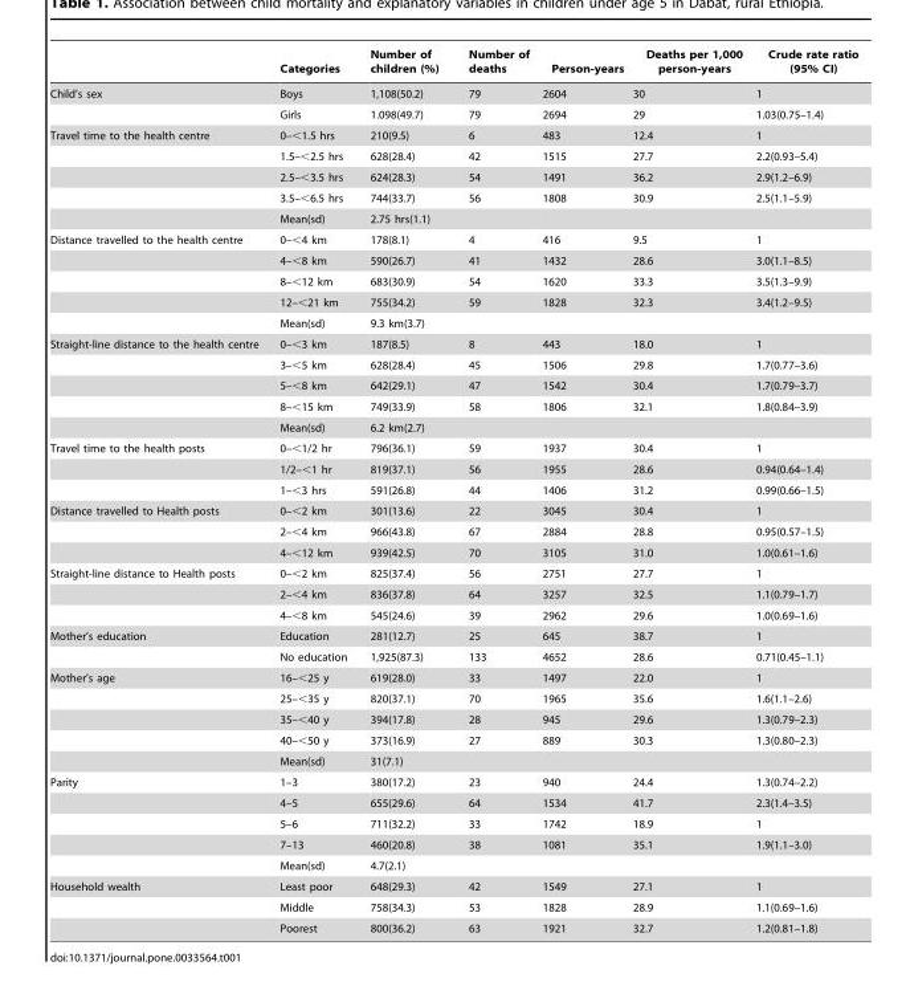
<table><thead><tr><td></td><td>Categories</td><td>Number of children (%)</td><td>Number of deaths</td><td>Person-years</td><td>Deaths per 1,000 person-years</td><td>Crude rate ratio (95% CI)</td></tr></thead><tbody><tr><td rowspan="2">Child’s sex</td><td>Boys</td><td>1,108(50.2)</td><td>79</td><td>2604</td><td>30</td><td>1</td></tr><tr><td>Girls</td><td>1.098(49.7)</td><td>79</td><td>2694</td><td>29</td><td>1.03(0.75–1.4)</td></tr><tr><td rowspan="5">Travel time to the health centre</td><td>0–&lt;1.5 hrs</td><td>210(9.5)</td><td>6</td><td>483</td><td>12.4</td><td>1</td></tr><tr><td>1.5–&lt;2.5 hrs</td><td>628(28.4)</td><td>42</td><td>1515</td><td>27.7</td><td>2.2(0.93–5.4)</td></tr><tr><td>2.5–&lt;3.5 hrs</td><td>624(28.3)</td><td>54</td><td>1491</td><td>36.2</td><td>2.9(1.2–6.9)</td></tr><tr><td>3.5–&lt;6.5 hrs</td><td>744(33.7)</td><td>56</td><td>1808</td><td>30.9</td><td>2.5(1.1–5.9)</td></tr><tr><td>Mean(sd)</td><td>2.75 hrs(1.1)</td><td></td><td></td><td></td><td></td></tr><tr><td rowspan="5">Distance travelled to the health centre</td><td>0–&lt;4 km</td><td>178(8.1)</td><td>4</td><td>416</td><td>9.5</td><td>1</td></tr><tr><td>4–&lt;8 km</td><td>590(26.7)</td><td>41</td><td>1432</td><td>28.6</td><td>3.0(1.1–8.5)</td></tr><tr><td>8–&lt;12 km</td><td>683(30.9)</td><td>54</td><td>1620</td><td>33.3</td><td>3.5(1.3–9.9)</td></tr><tr><td>12–&lt;21 km</td><td>755(34.2)</td><td>59</td><td>1828</td><td>32.3</td><td>3.4(1.2–9.5)</td></tr><tr><td>Mean(sd)</td><td>9.3 km(3.7)</td><td></td><td></td><td></td><td></td></tr><tr><td rowspan="5">Straight-line distance to the health centre</td><td>0–&lt;3 km</td><td>187(8.5)</td><td>8</td><td>443</td><td>18.0</td><td>1</td></tr><tr><td>3–&lt;5 km</td><td>628(28.4)</td><td>45</td><td>1506</td><td>29.8</td><td>1.7(0.77–3.6)</td></tr><tr><td>5–&lt;8 km</td><td>642(29.1)</td><td>47</td><td>1542</td><td>30.4</td><td>1.7(0.79–3.7)</td></tr><tr><td>8–&lt;15 km</td><td>749(33.9)</td><td>58</td><td>1806</td><td>32.1</td><td>1.8(0.84–3.9)</td></tr><tr><td>Mean(sd)</td><td>6.2 km(2.7)</td><td></td><td></td><td></td><td></td></tr><tr><td rowspan="3">Travel time to the health posts</td><td>0–&lt;1/2 hr</td><td>796(36.1)</td><td>59</td><td>1937</td><td>30.4</td><td>1</td></tr><tr><td>1/2–&lt;1 hr</td><td>819(37.1)</td><td>56</td><td>1955</td><td>28.6</td><td>0.94(0.64–1.4)</td></tr><tr><td>1–&lt;3 hrs</td><td>591(26.8)</td><td>44</td><td>1406</td><td>31.2</td><td>0.99(0.66–1.5)</td></tr><tr><td rowspan="3">Distance travelled to Health posts</td><td>0–&lt;2 km</td><td>301(13.6)</td><td>22</td><td>3045</td><td>30.4</td><td>1</td></tr><tr><td>2–&lt;4 km</td><td>966(43.8)</td><td>67</td><td>2884</td><td>28.8</td><td>0.95(0.57–1.5)</td></tr><tr><td>4–&lt;12 km</td><td>939(42.5)</td><td>70</td><td>3105</td><td>31.0</td><td>1.0(0.61–1.6)</td></tr><tr><td rowspan="3">Straight-line distance to Health posts</td><td>0–&lt;2 km</td><td>825(37.4)</td><td>56</td><td>2751</td><td>27.7</td><td>1</td></tr><tr><td>2–&lt;4 km</td><td>836(37.8)</td><td>64</td><td>3257</td><td>32.5</td><td>1.1(0.79–1.7)</td></tr><tr><td>4–&lt;8 km</td><td>545(24.6)</td><td>39</td><td>2962</td><td>29.6</td><td>1.0(0.69–1.6)</td></tr><tr><td rowspan="2">Mother’s education</td><td>Education</td><td>281(12.7)</td><td>25</td><td>645</td><td>38.7</td><td>1</td></tr><tr><td>No education</td><td>1,925(87.3)</td><td>133</td><td>4652</td><td>28.6</td><td>0.71(0.45–1.1)</td></tr><tr><td rowspan="5">Mother’s age</td><td>16–&lt;25 y</td><td>619(28.0)</td><td>33</td><td>1497</td><td>22.0</td><td>1</td></tr><tr><td>25–&lt;35 y</td><td>820(37.1)</td><td>70</td><td>1965</td><td>35.6</td><td>1.6(1.1–2.6)</td></tr><tr><td>35–&lt;40 y</td><td>394(17.8)</td><td>28</td><td>945</td><td>29.6</td><td>1.3(0.79–2.3)</td></tr><tr><td>40–&lt;50 y</td><td>373(16.9)</td><td>27</td><td>889</td><td>30.3</td><td>1.3(0.80–2.3)</td></tr><tr><td>Mean(sd)</td><td>31(7.1)</td><td></td><td></td><td></td><td></td></tr><tr><td rowspan="5">Parity</td><td>1–3</td><td>380(17.2)</td><td>23</td><td>940</td><td>24.4</td><td>1.3(0.74–2.2)</td></tr><tr><td>4–5</td><td>655(29.6)</td><td>64</td><td>1534</td><td>41.7</td><td>2.3(1.4–3.5)</td></tr><tr><td>5–6</td><td>711(32.2)</td><td>33</td><td>1742</td><td>18.9</td><td>1</td></tr><tr><td>7–13</td><td>460(20.8)</td><td>38</td><td>1081</td><td>35.1</td><td>1.9(1.1–3.0)</td></tr><tr><td>Mean(sd)</td><td>4.7(2.1)</td><td></td><td></td><td></td><td></td></tr><tr><td rowspan="3">Household wealth</td><td>Least poor</td><td>648(29.3)</td><td>42</td><td>1549</td><td>27.1</td><td>1</td></tr><tr><td>Middle</td><td>758(34.3)</td><td>53</td><td>1828</td><td>28.9</td><td>1.1(0.69–1.6)</td></tr><tr><td>Poorest</td><td>800(36.2)</td><td>63</td><td>1921</td><td>32.7</td><td>1.2(0.81–1.8)</td></tr></tbody></table>